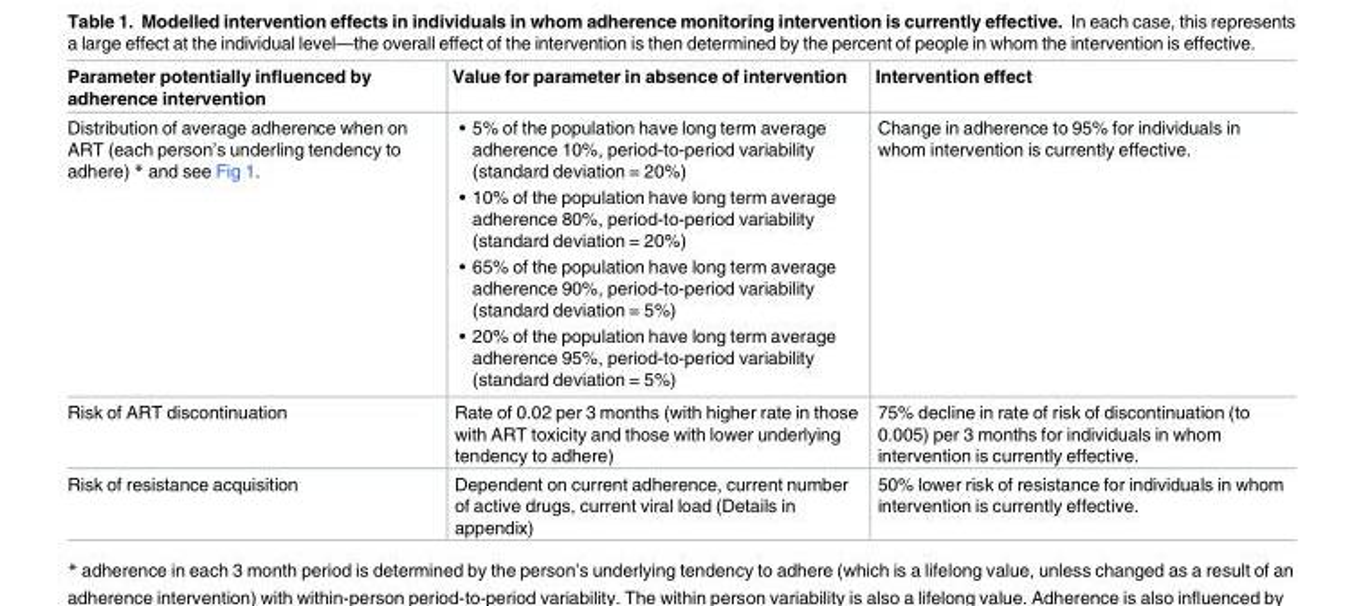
<table><thead><tr><td>Parameter potentially influenced by adherence intervention</td><td>Value for parameter in absence of intervention</td><td>Intervention effect</td></tr></thead><tbody><tr><td>Distribution of average adherence when on ART (each person’s underling tendency to adhere) * and see Fig 1.</td><td>• 5% of the population have long term average adherence 10%, period-to-period variability (standard deviation = 20%) • 10% of the population have long term average adherence 80%, period-to-period variability (standard deviation = 20%) • 65% of the population have long term average adherence 90%, period-to-period variability (standard deviation = 5%) • 20% of the population have long term average adherence 95%, period-to-period variability (standard deviation = 5%)</td><td>Change in adherence to 95% for individuals in whom intervention is currently effective.</td></tr><tr><td>Risk of ART discontinuation</td><td>Rate of 0.02 per 3 months (with higher rate in those with ART toxicity and those with lower underlying tendency to adhere)</td><td>75% decline in rate of risk of discontinuation (to 0.005) per 3 months for individuals in whom intervention is currently effective.</td></tr><tr><td>Risk of resistance acquisition</td><td>Dependent on current adherence, current number of active drugs, current viral load (Details in appendix)</td><td>50% lower risk of resistance for individuals in whom intervention is currently effective.</td></tr></tbody></table>